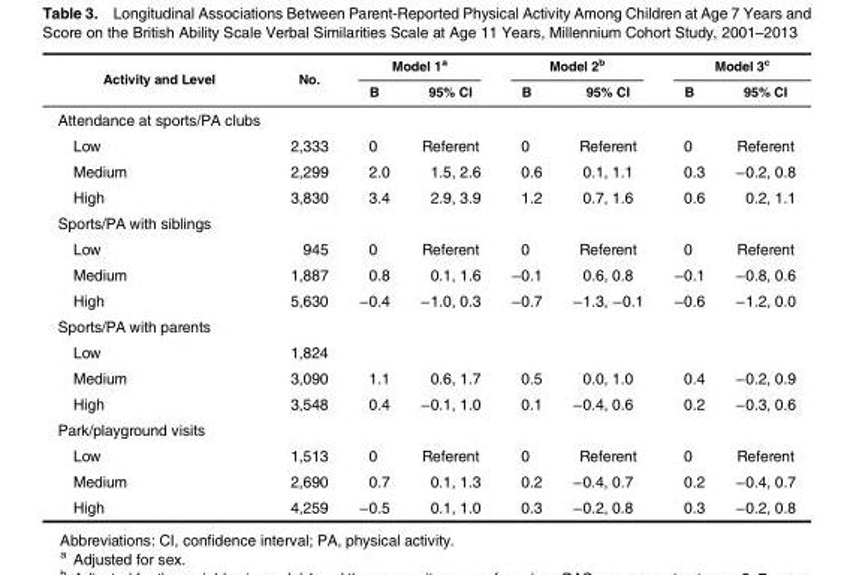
<table><thead><tr><td rowspan="2">Activity and Level</td><td rowspan="2">No.</td><td colspan="2">Model 1<sup>a</sup></td><td colspan="2">Model 2<sup>b</sup></td><td colspan="2">Model 3<sup>c</sup></td></tr><tr><td>B</td><td>95% CI</td><td>B</td><td>95% CI</td><td>B</td><td>95% CI</td></tr></thead><tbody><tr><td colspan="8">Attendance at sports/PA clubs</td></tr><tr><td>Low</td><td>2,333</td><td>0</td><td>Referent</td><td>0</td><td>Referent</td><td>0</td><td>Referent</td></tr><tr><td>Medium</td><td>2,299</td><td>2.0</td><td>1.5, 2.6</td><td>0.6</td><td>0.1, 1.1</td><td>0.3</td><td>−0.2, 0.8</td></tr><tr><td>High</td><td>3,830</td><td>3.4</td><td>2.9, 3.9</td><td>1.2</td><td>0.7, 1.6</td><td>0.6</td><td>0.2, 1.1</td></tr><tr><td colspan="8">Sports/PA with siblings</td></tr><tr><td>Low</td><td>945</td><td>0</td><td>Referent</td><td>0</td><td>Referent</td><td>0</td><td>Referent</td></tr><tr><td>Medium</td><td>1,887</td><td>0.8</td><td>0.1, 1.6</td><td>−0.1</td><td>0.6, 0.8</td><td>−0.1</td><td>−0.8, 0.6</td></tr><tr><td>High</td><td>5,630</td><td>−0.4</td><td>−1.0, 0.3</td><td>−0.7</td><td>−1.3, −0.1</td><td>−0.6</td><td>−1.2, 0.0</td></tr><tr><td colspan="8">Sports/PA with parents</td></tr><tr><td>Low</td><td>1,824</td><td></td><td></td><td></td><td></td><td></td><td></td></tr><tr><td>Medium</td><td>3,090</td><td>1.1</td><td>0.6, 1.7</td><td>0.5</td><td>0.0, 1.0</td><td>0.4</td><td>−0.2, 0.9</td></tr><tr><td>High</td><td>3,548</td><td>0.4</td><td>−0.1, 1.0</td><td>0.1</td><td>−0.4, 0.6</td><td>0.2</td><td>−0.3, 0.6</td></tr><tr><td colspan="8">Park/playground visits</td></tr><tr><td>Low</td><td>1,513</td><td>0</td><td>Referent</td><td>0</td><td>Referent</td><td>0</td><td>Referent</td></tr><tr><td>Medium</td><td>2,690</td><td>0.7</td><td>0.1, 1.3</td><td>0.2</td><td>−0.4, 0.7</td><td>0.2</td><td>−0.4, 0.7</td></tr><tr><td>High</td><td>4,259</td><td>−0.5</td><td>0.1, 1.0</td><td>0.3</td><td>−0.2, 0.8</td><td>0.3</td><td>−0.2, 0.8</td></tr></tbody></table>